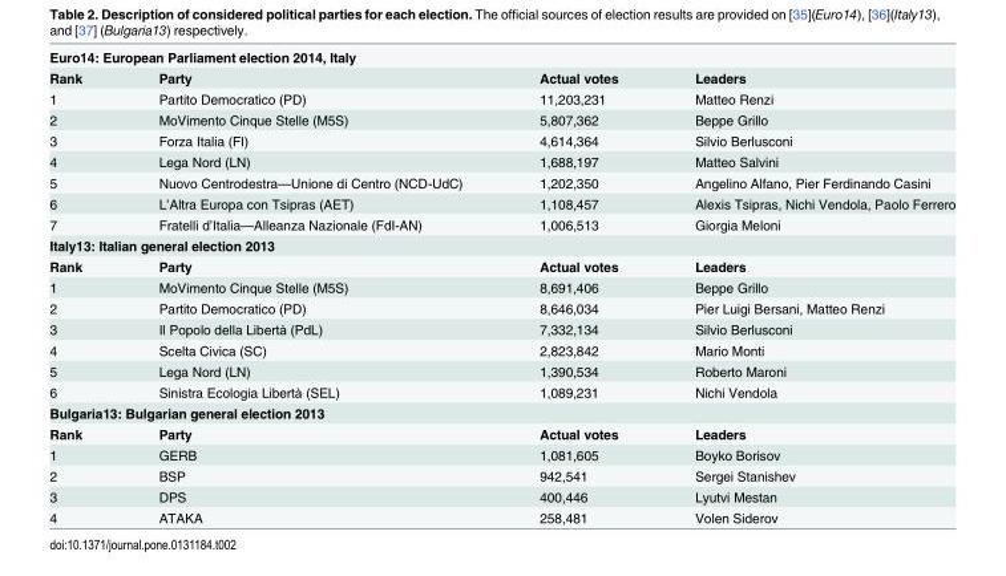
<table><tbody><tr><td colspan="4">Euro14: European Parliament election 2014, Italy</td></tr><tr><td>Rank</td><td>Party</td><td>Actual votes</td><td>Leaders</td></tr><tr><td>1</td><td>Partito Democratico (PD)</td><td>11,203,231</td><td>Matteo Renzi</td></tr><tr><td>2</td><td>MoVimento Cinque Stelle (M5S)</td><td>5,807,362</td><td>Beppe Grillo</td></tr><tr><td>3</td><td>Forza Italia (FI)</td><td>4,614,364</td><td>Silvio Berlusconi</td></tr><tr><td>4</td><td>Lega Nord (LN)</td><td>1,688,197</td><td>Matteo Salvini</td></tr><tr><td>5</td><td>Nuovo Centrodestra—Unione di Centro (NCD-UdC)</td><td>1,202,350</td><td>Angelino Alfano, Pier Ferdinando Casini</td></tr><tr><td>6</td><td>L’Altra Europa con Tsipras (AET)</td><td>1,108,457</td><td>Alexis Tsipras, Nichi Vendola, Paolo Ferrero</td></tr><tr><td>7</td><td>Fratelli d’Italia—Alleanza Nazionale (FdI-AN)</td><td>1,006,513</td><td>Giorgia Meloni</td></tr><tr><td colspan="4">Italy13: Italian general election 2013</td></tr><tr><td>Rank</td><td>Party</td><td>Actual votes</td><td>Leaders</td></tr><tr><td>1</td><td>MoVimento Cinque Stelle (M5S)</td><td>8,691,406</td><td>Beppe Grillo</td></tr><tr><td>2</td><td>Partito Democratico (PD)</td><td>8,646,034</td><td>Pier Luigi Bersani, Matteo Renzi</td></tr><tr><td>3</td><td>Il Popolo della Libertà (PdL)</td><td>7,332,134</td><td>Silvio Berlusconi</td></tr><tr><td>4</td><td>Scelta Civica (SC)</td><td>2,823,842</td><td>Mario Monti</td></tr><tr><td>5</td><td>Lega Nord (LN)</td><td>1,390,534</td><td>Roberto Maroni</td></tr><tr><td>6</td><td>Sinistra Ecologia Libertà (SEL)</td><td>1,089,231</td><td>Nichi Vendola</td></tr><tr><td colspan="4">Bulgaria13: Bulgarian general election 2013</td></tr><tr><td>Rank</td><td>Party</td><td>Actual votes</td><td>Leaders</td></tr><tr><td>1</td><td>GERB</td><td>1,081,605</td><td>Boyko Borisov</td></tr><tr><td>2</td><td>BSP</td><td>942,541</td><td>Sergei Stanishev</td></tr><tr><td>3</td><td>DPS</td><td>400,446</td><td>Lyutvi Mestan</td></tr><tr><td>4</td><td>ATAKA</td><td>258,481</td><td>Volen Siderov</td></tr></tbody></table>